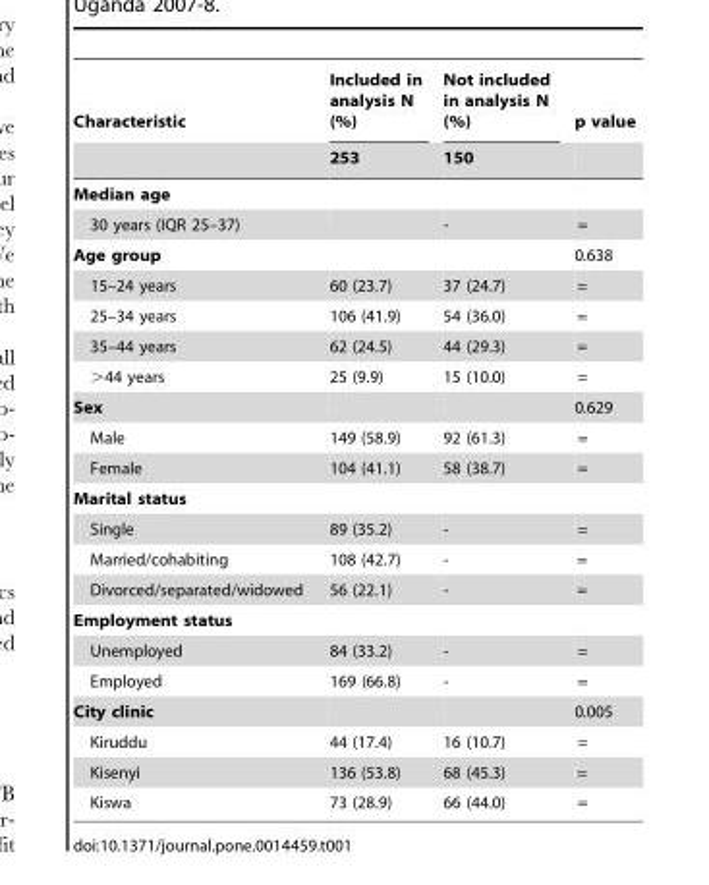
<table><thead><tr><td rowspan="2">Characteristic</td><td rowspan="2">Included in analysis N (%) 253</td><td rowspan="2">Not included in analysis N (%) 150</td><td rowspan="2">p value</td></tr><tr></tr></thead><tbody><tr><td colspan="4">Median age</td></tr><tr><td>30 years (IQR 25–37)</td><td></td><td>-</td><td>=</td></tr><tr><td>Age group</td><td></td><td></td><td>0.638</td></tr><tr><td>15–24 years</td><td>60 (23.7)</td><td>37 (24.7)</td><td>=</td></tr><tr><td>25–34 years</td><td>106 (41.9)</td><td>54 (36.0)</td><td>=</td></tr><tr><td>35–44 years</td><td>62 (24.5)</td><td>44 (29.3)</td><td>=</td></tr><tr><td>&gt;44 years</td><td>25 (9.9)</td><td>15 (10.0)</td><td>=</td></tr><tr><td>Sex</td><td></td><td></td><td>0.629</td></tr><tr><td>Male</td><td>149 (58.9)</td><td>92 (61.3)</td><td>=</td></tr><tr><td>Female</td><td>104 (41.1)</td><td>58 (38.7)</td><td>=</td></tr><tr><td colspan="4">Marital status</td></tr><tr><td>Single</td><td>89 (35.2)</td><td>-</td><td>=</td></tr><tr><td>Married/cohabiting</td><td>108 (42.7)</td><td>-</td><td>=</td></tr><tr><td>Divorced/separated/widowed</td><td>56 (22.1)</td><td>-</td><td>=</td></tr><tr><td colspan="4">Employment status</td></tr><tr><td>Unemployed</td><td>84 (33.2)</td><td>-</td><td>=</td></tr><tr><td>Employed</td><td>169 (66.8)</td><td>-</td><td>=</td></tr><tr><td>City clinic</td><td></td><td></td><td>0.005</td></tr><tr><td>Kiruddu</td><td>44 (17.4)</td><td>16 (10.7)</td><td>=</td></tr><tr><td>Kisenyi</td><td>136 (53.8)</td><td>68 (45.3)</td><td>=</td></tr><tr><td>Kiswa</td><td>73 (28.9)</td><td>66 (44.0)</td><td>=</td></tr></tbody></table>